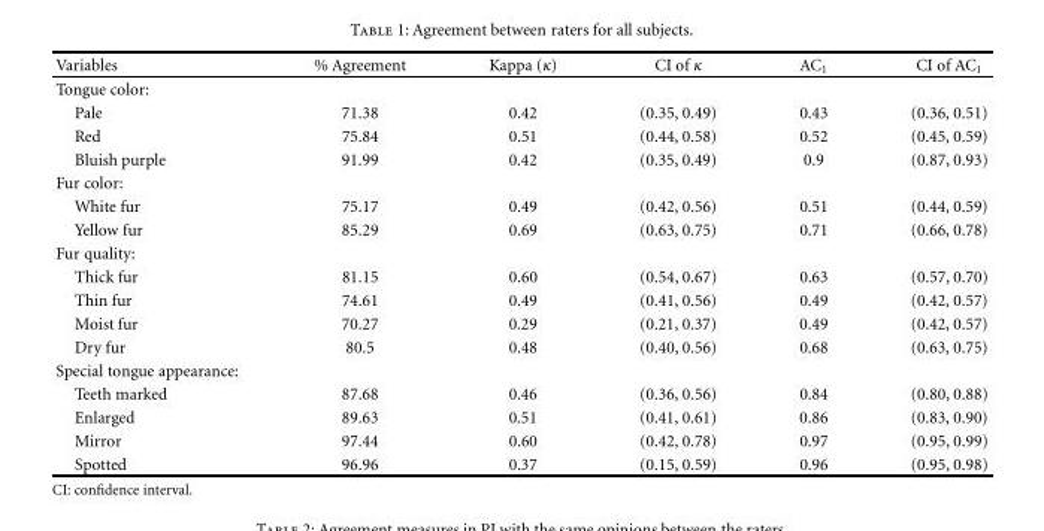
<table><thead><tr><td>Variables</td><td>% Agreement</td><td>Kappa (κ)</td><td>CI of κ</td><td>AC<sub>1</sub></td><td>CI of AC<sub>1</sub></td></tr></thead><tbody><tr><td colspan="6">Tongue color:</td></tr><tr><td>Pale</td><td>71.38</td><td>0.42</td><td>(0.35, 0.49)</td><td>0.43</td><td>(0.36, 0.51)</td></tr><tr><td>Red</td><td>75.84</td><td>0.51</td><td>(0.44, 0.58)</td><td>0.52</td><td>(0.45, 0.59)</td></tr><tr><td>Bluish purple</td><td>91.99</td><td>0.42</td><td>(0.35, 0.49)</td><td>0.9</td><td>(0.87, 0.93)</td></tr><tr><td colspan="6">Fur color:</td></tr><tr><td>White fur</td><td>75.17</td><td>0.49</td><td>(0.42, 0.56)</td><td>0.51</td><td>(0.44, 0.59)</td></tr><tr><td>Yellow fur</td><td>85.29</td><td>0.69</td><td>(0.63, 0.75)</td><td>0.71</td><td>(0.66, 0.78)</td></tr><tr><td colspan="6">Fur quality:</td></tr><tr><td>Thick fur</td><td>81.15</td><td>0.60</td><td>(0.54, 0.67)</td><td>0.63</td><td>(0.57, 0.70)</td></tr><tr><td>Thin fur</td><td>74.61</td><td>0.49</td><td>(0.41, 0.56)</td><td>0.49</td><td>(0.42, 0.57)</td></tr><tr><td>Moist fur</td><td>70.27</td><td>0.29</td><td>(0.21, 0.37)</td><td>0.49</td><td>(0.42, 0.57)</td></tr><tr><td>Dry fur</td><td>80.5</td><td>0.48</td><td>(0.40, 0.56)</td><td>0.68</td><td>(0.63, 0.75)</td></tr><tr><td colspan="6">Special tongue appearance:</td></tr><tr><td>Teeth marked</td><td>87.68</td><td>0.46</td><td>(0.36, 0.56)</td><td>0.84</td><td>(0.80, 0.88)</td></tr><tr><td>Enlarged</td><td>89.63</td><td>0.51</td><td>(0.41, 0.61)</td><td>0.86</td><td>(0.83, 0.90)</td></tr><tr><td>Mirror</td><td>97.44</td><td>0.60</td><td>(0.42, 0.78)</td><td>0.97</td><td>(0.95, 0.99)</td></tr><tr><td>Spotted</td><td>96.96</td><td>0.37</td><td>(0.15, 0.59)</td><td>0.96</td><td>(0.95, 0.98)</td></tr></tbody></table>